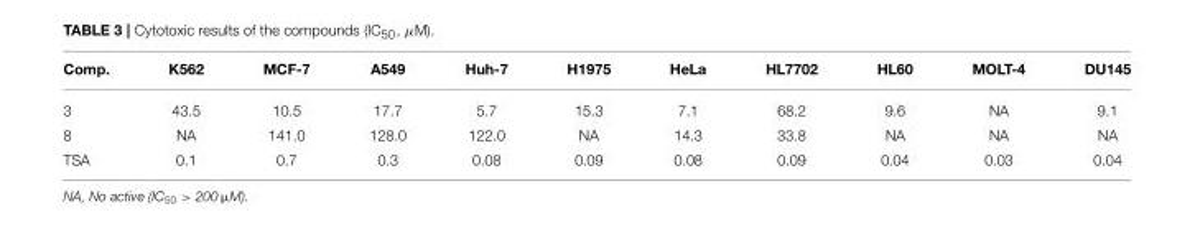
<table><thead><tr><td>Comp.</td><td>K562</td><td>MCF-7</td><td>A549</td><td>Huh-7</td><td>H1975</td><td>HeLa</td><td>HL7702</td><td>HL60</td><td>MOLT-4</td><td>DU145</td></tr></thead><tbody><tr><td>3</td><td>43.5</td><td>10.5</td><td>17.7</td><td>5.7</td><td>15.3</td><td>7.1</td><td>68.2</td><td>9.6</td><td>NA</td><td>9.1</td></tr><tr><td>8</td><td>NA</td><td>141.0</td><td>128.0</td><td>122.0</td><td>NA</td><td>14.3</td><td>33.8</td><td>NA</td><td>NA</td><td>NA</td></tr><tr><td>TSA</td><td>0.1</td><td>0.7</td><td>0.3</td><td>0.08</td><td>0.09</td><td>0.08</td><td>0.09</td><td>0.04</td><td>0.03</td><td>0.04</td></tr></tbody></table>